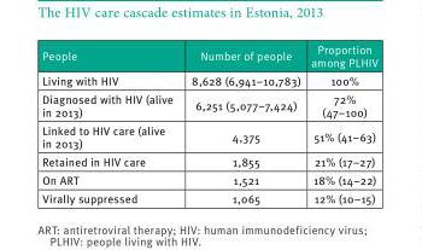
<table><thead><tr><td>People</td><td>Number of people</td><td>Proportion among PLHIV</td></tr></thead><tbody><tr><td>Living with HIV</td><td>8,628 (6,941–10,783)</td><td>100%</td></tr><tr><td>Diagnosed with HIV (alive in 2013)</td><td>6,251 (5,077–7,424)</td><td>72% (47–100)</td></tr><tr><td>Linked to HIV care (alive in 2013)</td><td>4,375</td><td>51% (41–63)</td></tr><tr><td>Retained in HIV care</td><td>1,855</td><td>21% (17–27)</td></tr><tr><td>On ART</td><td>1,521</td><td>18% (14–22)</td></tr><tr><td>Virally suppressed</td><td>1,065</td><td>12% (10–15)</td></tr></tbody></table>